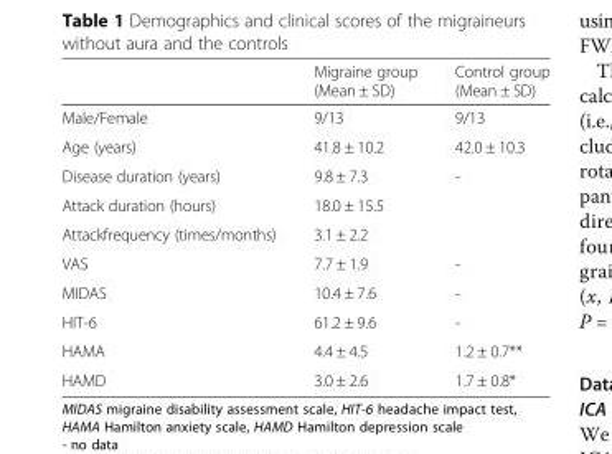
<table><thead><tr><td></td><td>Migraine group (Mean ± SD)</td><td>Control group (Mean ± SD)</td></tr></thead><tbody><tr><td>Male/Female</td><td>9/13</td><td>9/13</td></tr><tr><td>Age (years)</td><td>41.8 ± 10.2</td><td>42.0 ± 10.3</td></tr><tr><td>Disease duration (years)</td><td>9.8 ± 7.3</td><td>-</td></tr><tr><td>Attack duration (hours)</td><td>18.0 ± 15.5</td><td></td></tr><tr><td>Attackfrequency (times/months)</td><td>3.1 ± 2.2</td><td></td></tr><tr><td>VAS</td><td>7.7 ± 1.9</td><td>-</td></tr><tr><td>MIDAS</td><td>10.4 ± 7.6</td><td>-</td></tr><tr><td>HIT-6</td><td>61.2 ± 9.6</td><td>-</td></tr><tr><td>HAMA</td><td>4.4 ± 4.5</td><td>1.2 ± 0.7**</td></tr><tr><td>HAMD</td><td>3.0 ± 2.6</td><td>1.7 ± 0.8*</td></tr></tbody></table>